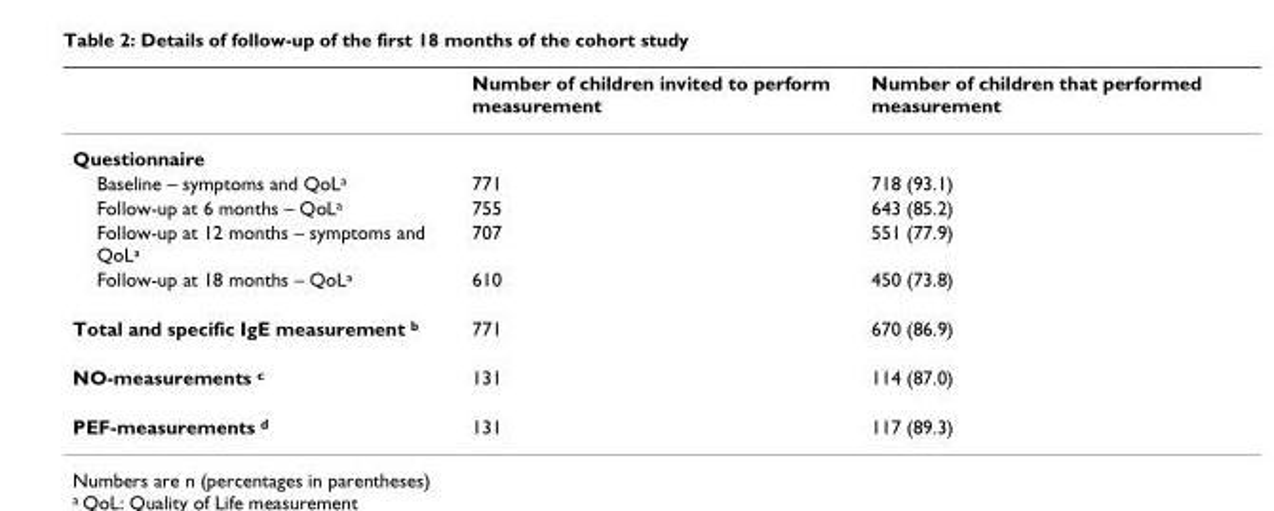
<table><thead><tr><td></td><td>Number of children invited to perform measurement</td><td>Number of children that performed measurement</td></tr></thead><tbody><tr><td colspan="3">Questionnaire</td></tr><tr><td>Baseline – symptoms and QoL<sup>a</sup></td><td>771</td><td>718 (93.1)</td></tr><tr><td>Follow-up at 6 months – QoL<sup>a</sup></td><td>755</td><td>643 (85.2)</td></tr><tr><td>Follow-up at 12 months – symptoms and QoL<sup>a</sup></td><td>707</td><td>551 (77.9)</td></tr><tr><td>Follow-up at 18 months – QoL<sup>a</sup></td><td>610</td><td>450 (73.8)</td></tr><tr><td>Total and specific IgE measurement <sup>b</sup></td><td>771</td><td>670 (86.9)</td></tr><tr><td>NO-measurements <sup>c</sup></td><td>131</td><td>114 (87.0)</td></tr><tr><td>PEF-measurements <sup>d</sup></td><td>131</td><td>117 (89.3)</td></tr></tbody></table>